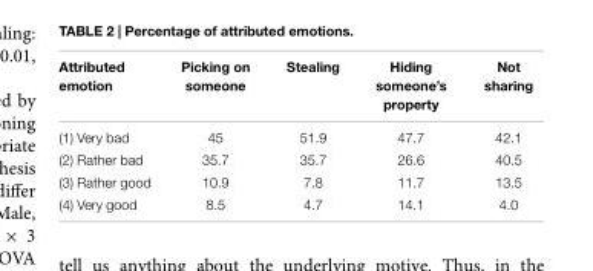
<table><thead><tr><td>Attributed emotion</td><td>Picking on someone</td><td>Stealing</td><td>Hiding someone’s property</td><td>Not sharing</td></tr></thead><tbody><tr><td>(1) Very bad</td><td>45</td><td>51.9</td><td>47.7</td><td>42.1</td></tr><tr><td>(2) Rather bad</td><td>35.7</td><td>35.7</td><td>26.6</td><td>40.5</td></tr><tr><td>(3) Rather good</td><td>10.9</td><td>7.8</td><td>11.7</td><td>13.5</td></tr><tr><td>(4) Very good</td><td>8.5</td><td>4.7</td><td>14.1</td><td>4.0</td></tr></tbody></table>